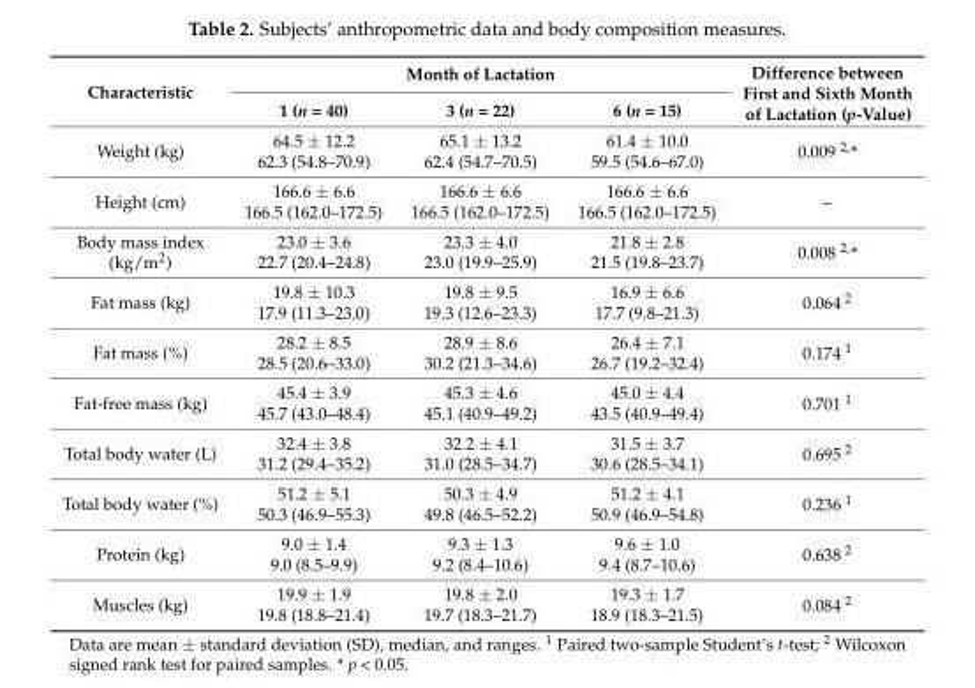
<table><thead><tr><td rowspan="2">Characteristic</td><td colspan="3">Month of Lactation</td><td rowspan="2">Difference between First and Sixth Month of Lactation (p-Value)</td></tr><tr><td>1 (n = 40)</td><td>3 (n = 22)</td><td>6 (n = 15)</td></tr></thead><tbody><tr><td>Weight (kg)</td><td>64.5 ± 12.2 62.3 (54.8–70.9)</td><td>65.1 ± 13.2 62.4 (54.7–70.5)</td><td>61.4 ± 10.0 59.5 (54.6–67.0)</td><td>0.009 <sup>2,</sup>*</td></tr><tr><td>Height (cm)</td><td>166.6 ± 6.6 166.5 (162.0–172.5)</td><td>166.6 ± 6.6 166.5 (162.0–172.5)</td><td>166.6 ± 6.6 166.5 (162.0–172.5)</td><td>–</td></tr><tr><td>Body mass index (kg/m<sup>2</sup>)</td><td>23.0 ± 3.6 22.7 (20.4–24.8)</td><td>23.3 ± 4.0 23.0 (19.9–25.9)</td><td>21.8 ± 2.8 21.5 (19.8–23.7)</td><td>0.008 <sup>2,</sup>*</td></tr><tr><td>Fat mass (kg)</td><td>19.8 ± 10.3 17.9 (11.3–23.0)</td><td>19.8 ± 9.5 19.3 (12.6–23.3)</td><td>16.9 ± 6.6 17.7 (9.8–21.3)</td><td>0.064 <sup>2</sup></td></tr><tr><td>Fat mass (%)</td><td>28.2 ± 8.5 28.5 (20.6–33.0)</td><td>28.9 ± 8.6 30.2 (21.3–34.6)</td><td>26.4 ± 7.1 26.7 (19.2–32.4)</td><td>0.174 <sup>1</sup></td></tr><tr><td>Fat-free mass (kg)</td><td>45.4 ± 3.9 45.7 (43.0–48.4)</td><td>45.3 ± 4.6 45.1 (40.9–49.2)</td><td>45.0 ± 4.4 43.5 (40.9–49.4)</td><td>0.701 <sup>1</sup></td></tr><tr><td>Total body water (L)</td><td>32.4 ± 3.8 31.2 (29.4–35.2)</td><td>32.2 ± 4.1 31.0 (28.5–34.7)</td><td>31.5 ± 3.7 30.6 (28.5–34.1)</td><td>0.695 <sup>2</sup></td></tr><tr><td>Total body water (%)</td><td>51.2 ± 5.1 50.3 (46.9–55.3)</td><td>50.3 ± 4.9 49.8 (46.5–52.2)</td><td>51.2 ± 4.1 50.9 (46.9–54.8)</td><td>0.236 <sup>1</sup></td></tr><tr><td>Protein (kg)</td><td>9.0 ± 1.4 9.0 (8.5–9.9)</td><td>9.3 ± 1.3 9.2 (8.4–10.6)</td><td>9.6 ± 1.0 9.4 (8.7–10.6)</td><td>0.638 <sup>2</sup></td></tr><tr><td>Muscles (kg)</td><td>19.9 ± 1.9 19.8 (18.8–21.4)</td><td>19.8 ± 2.0 19.7 (18.3–21.7)</td><td>19.3 ± 1.7 18.9 (18.3–21.5)</td><td>0.084 <sup>2</sup></td></tr></tbody></table>